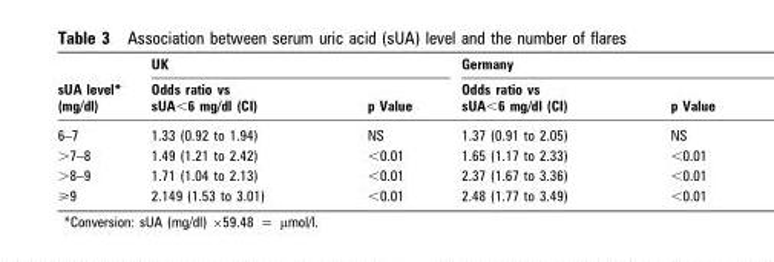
<table><thead><tr><td rowspan="2">sUA level* (mg/dl)</td><td colspan="2">UK</td><td colspan="2">Germany</td></tr><tr><td>Odds ratio vs sUA&lt;6 mg/dl (CI)</td><td>p Value</td><td>Odds ratio vs sUA&lt;6 mg/dl (CI)</td><td>p Value</td></tr></thead><tbody><tr><td>6–7</td><td>1.33 (0.92 to 1.94)</td><td>NS</td><td>1.37 (0.91 to 2.05)</td><td>NS</td></tr><tr><td>&gt;7–8</td><td>1.49 (1.21 to 2.42)</td><td>&lt;0.01</td><td>1.65 (1.17 to 2.33)</td><td>&lt;0.01</td></tr><tr><td>&gt;8–9</td><td>1.71 (1.04 to 2.13)</td><td>&lt;0.01</td><td>2.37 (1.67 to 3.36)</td><td>&lt;0.01</td></tr><tr><td>&gt;9</td><td>2.149 (1.53 to 3.01)</td><td>&lt;0.01</td><td>2.48 (1.77 to 3.49)</td><td>&lt;0.01</td></tr></tbody></table>